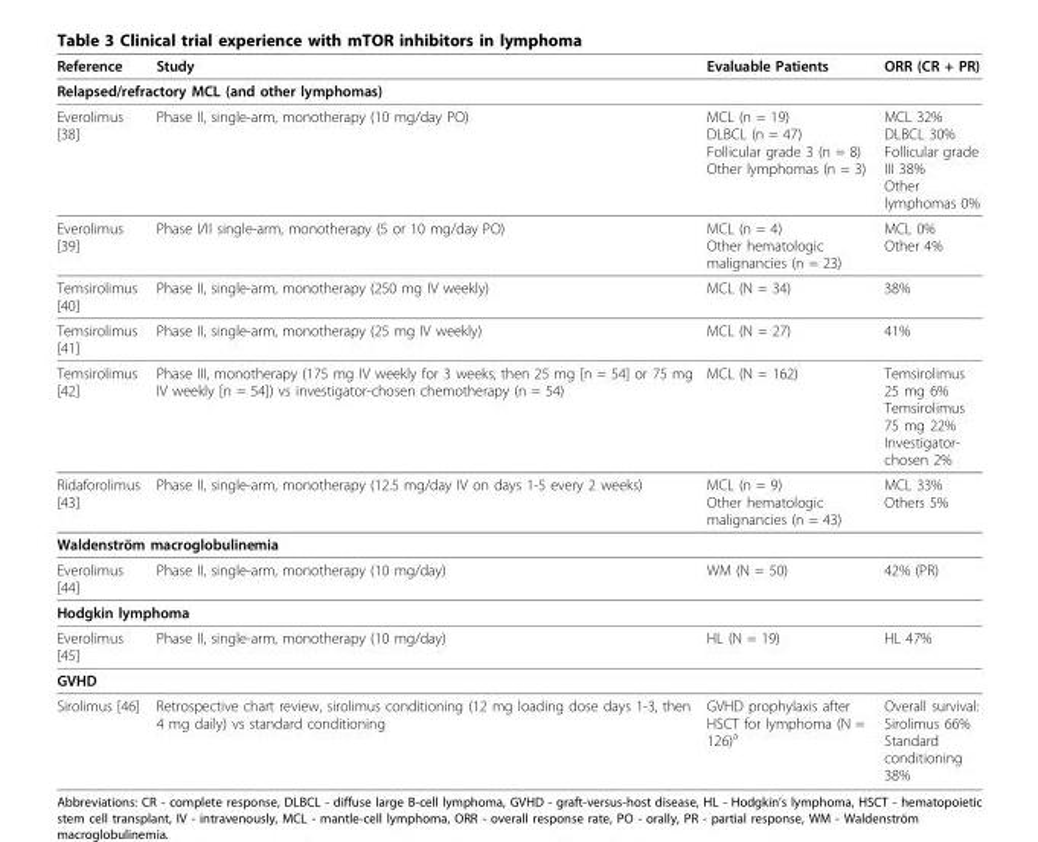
<table><thead><tr><td>Reference</td><td>Study</td><td>Evaluable Patients</td><td>ORR (CR + PR)</td></tr></thead><tbody><tr><td colspan="4">Relapsed/refractory MCL (and other lymphomas)</td></tr><tr><td>Everolimus [38]</td><td>Phase II, single-arm, monotherapy (10 mg/day PO)</td><td>MCL (n = 19) DLBCL (n = 47) Follicular grade 3 (n = 8) Other lymphomas (n = 3)</td><td>MCL 32% DLBCL 30% Follicular grade III 38% Other lymphomas 0%</td></tr><tr><td>Everolimus [39]</td><td>Phase I/II single-arm, monotherapy (5 or 10 mg/day PO)</td><td>MCL (n = 4) Other hematologic malignancies (n = 23)</td><td>MCL 0% Other 4%</td></tr><tr><td>Temsirolimus [40]</td><td>Phase II, single-arm, monotherapy (250 mg IV weekly)</td><td>MCL (N = 34)</td><td>38%</td></tr><tr><td>Temsirolimus [41]</td><td>Phase II, single-arm, monotherapy (25 mg IV weekly)</td><td>MCL (N = 27)</td><td>41%</td></tr><tr><td>Temsirolimus [42]</td><td>Phase III, monotherapy (175 mg IV weekly for 3 weeks, then 25 mg [n = 54] or 75 mg IV weekly [n = 54]) vs investigator-chosen chemotherapy (n = 54)</td><td>MCL (N = 162)</td><td>Temsirolimus 25 mg 6% Temsirolimus 75 mg 22% Investigator- chosen 2%</td></tr><tr><td>Ridaforolimus [43]</td><td>Phase II, single-arm, monotherapy (12.5 mg/day IV on days 1-5 every 2 weeks)</td><td>MCL (n = 9) Other hematologic malignancies (n = 43)</td><td>MCL 33% Others 5%</td></tr><tr><td colspan="4">Waldenström macroglobulinemia</td></tr><tr><td>Everolimus [44]</td><td>Phase II, single-arm, monotherapy (10 mg/day)</td><td>WM (N = 50)</td><td>42% (PR)</td></tr><tr><td colspan="4">Hodgkin lymphoma</td></tr><tr><td>Everolimus [45]</td><td>Phase II, single-arm, monotherapy (10 mg/day)</td><td>HL (N = 19)</td><td>HL 47%</td></tr><tr><td colspan="4">GVHD</td></tr><tr><td>Sirolimus [46]</td><td>Retrospective chart review, sirolimus conditioning (12 mg loading dose days 1-3, then 4 mg daily) vs standard conditioning</td><td>GVHD prophylaxis after HSCT for lymphoma (N = 126)<sup>a</sup></td><td>Overall survival: Sirolimus 66% Standard conditioning 38%</td></tr></tbody></table>